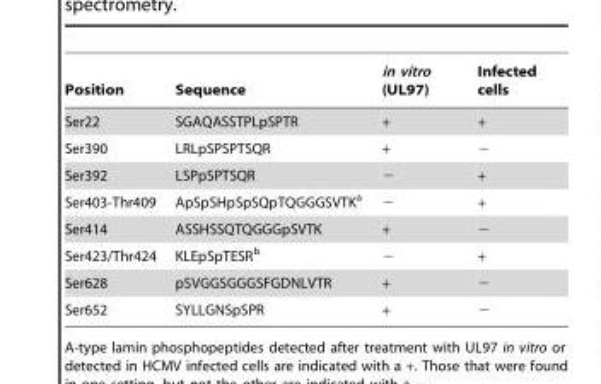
<table><thead><tr><td>Position</td><td>Sequence</td><td>in vitro (UL97)</td><td>Infected cells</td></tr></thead><tbody><tr><td>Ser22</td><td>SGAQASSTPLpSPTR</td><td>+</td><td>+</td></tr><tr><td>Ser390</td><td>LRLpSPSPTSQR</td><td>+</td><td>−</td></tr><tr><td>Ser392</td><td>LSPpSPTSQR</td><td>−</td><td>+</td></tr><tr><td>Ser403-Thr409</td><td>ApSpSHpSpSQpTQGGGSVTK<sup>a</sup></td><td>−</td><td>+</td></tr><tr><td>Ser414</td><td>ASSHSSQTQGGGpSVTK</td><td>+</td><td>−</td></tr><tr><td>Ser423/Thr424</td><td>KLEpSpTESR<sup>b</sup></td><td>−</td><td>+</td></tr><tr><td>Ser628</td><td>pSVGGSGGGSFGDNLVTR</td><td>+</td><td>−</td></tr><tr><td>Ser652</td><td>SYLLGNSpSPR</td><td>+</td><td>−</td></tr></tbody></table>